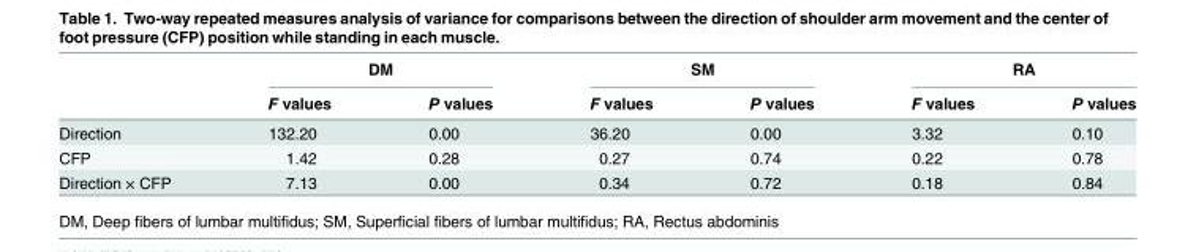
<table><thead><tr><td rowspan="2"></td><td colspan="2">DM</td><td colspan="2">SM</td><td colspan="2">RA</td></tr><tr><td>F values</td><td>P values</td><td>F values</td><td>P values</td><td>F values</td><td>P values</td></tr></thead><tbody><tr><td>Direction</td><td>132.20</td><td>0.00</td><td>36.20</td><td>0.00</td><td>3.32</td><td>0.10</td></tr><tr><td>CFP</td><td>1.42</td><td>0.28</td><td>0.27</td><td>0.74</td><td>0.22</td><td>0.78</td></tr><tr><td>Direction × CFP</td><td>7.13</td><td>0.00</td><td>0.34</td><td>0.72</td><td>0.18</td><td>0.84</td></tr></tbody></table>